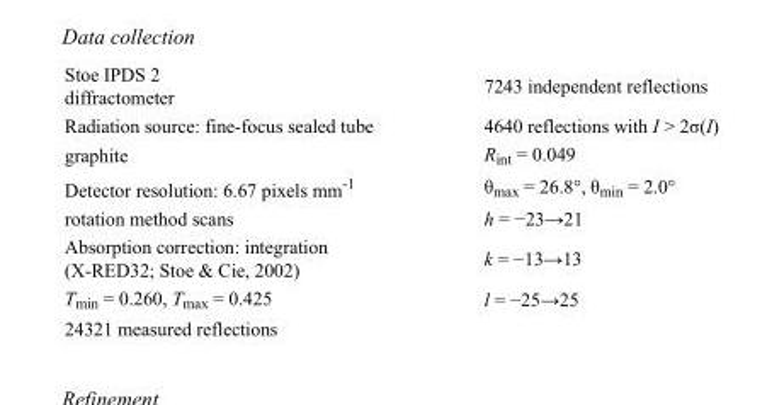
<table><tbody><tr><td>Stoe IPDS 2 diffractometer</td><td>7243 independent reflections</td></tr><tr><td>Radiation source: fine-focus sealed tube</td><td>4640 reflections with I &gt; 2σ(I)</td></tr><tr><td>graphite</td><td>R<sub>int</sub> = 0.049</td></tr><tr><td>Detector resolution: 6.67 pixels mm<sup>-1</sup></td><td>θ<sub>max</sub> = 26.8°, θ<sub>min</sub> = 2.0°</td></tr><tr><td>rotation method scans</td><td>h = −23→21</td></tr><tr><td>Absorption correction: integration (X-RED32; Stoe &amp; Cie, 2002)</td><td>k = −13→13</td></tr><tr><td>T<sub>min</sub> = 0.260, T<sub>max</sub> = 0.425</td><td>l = −25→25</td></tr><tr><td>24321 measured reflections</td><td></td></tr></tbody></table>